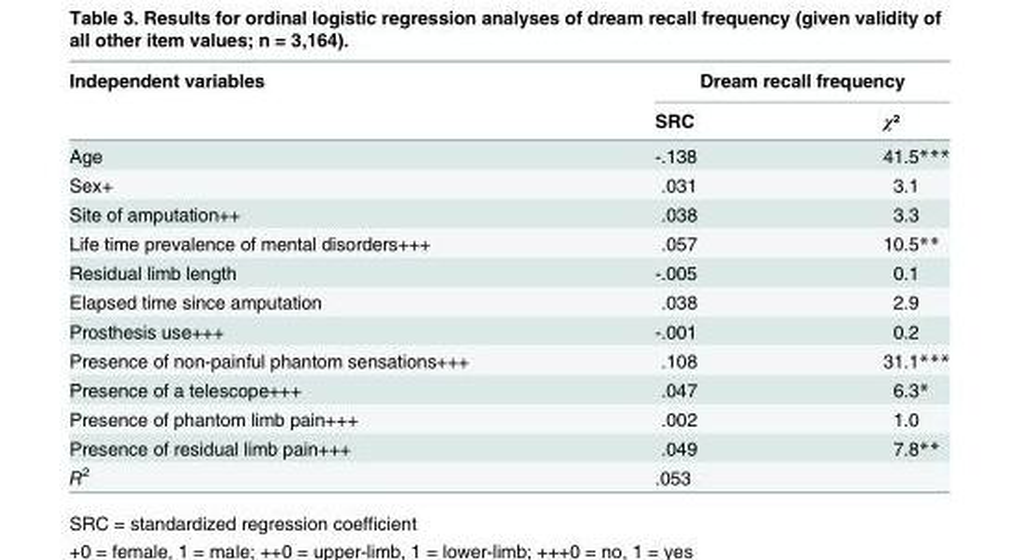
<table><thead><tr><td rowspan="2">Independent variables</td><td colspan="2">Dream recall frequency</td></tr><tr><td>SRC</td><td>χ²</td></tr></thead><tbody><tr><td>Age</td><td>-.138</td><td>41.5***</td></tr><tr><td>Sex+</td><td>.031</td><td>3.1</td></tr><tr><td>Site of amputation++</td><td>.038</td><td>3.3</td></tr><tr><td>Life time prevalence of mental disorders+++</td><td>.057</td><td>10.5**</td></tr><tr><td>Residual limb length</td><td>-.005</td><td>0.1</td></tr><tr><td>Elapsed time since amputation</td><td>.038</td><td>2.9</td></tr><tr><td>Prosthesis use+++</td><td>-.001</td><td>0.2</td></tr><tr><td>Presence of non-painful phantom sensations+++</td><td>.108</td><td>31.1***</td></tr><tr><td>Presence of a telescope+++</td><td>.047</td><td>6.3*</td></tr><tr><td>Presence of phantom limb pain+++</td><td>.002</td><td>1.0</td></tr><tr><td>Presence of residual limb pain+++</td><td>.049</td><td>7.8**</td></tr><tr><td>R<sup>2</sup></td><td>.053</td><td></td></tr></tbody></table>